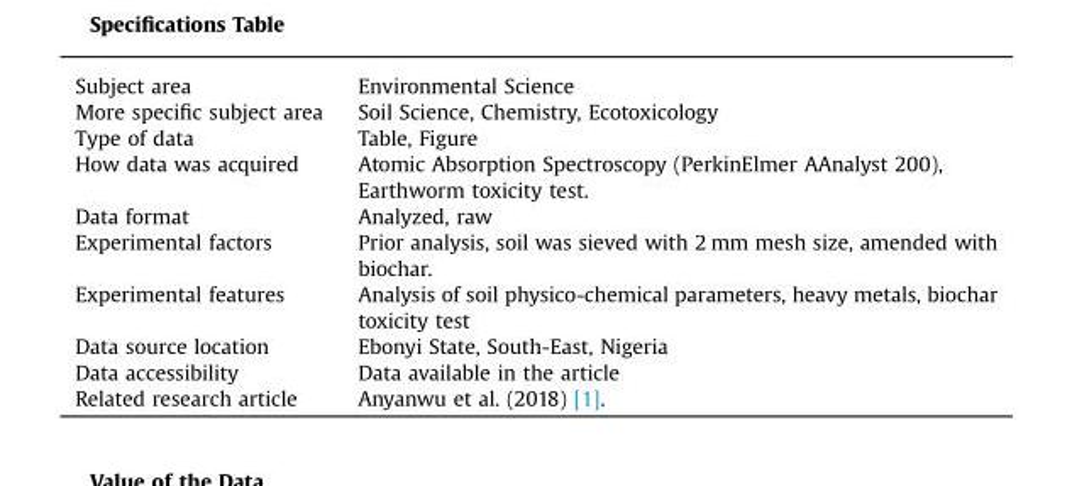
<table><tbody><tr><td>Subject area</td><td>Environmental Science</td></tr><tr><td>More specific subject area</td><td>Soil Science, Chemistry, Ecotoxicology</td></tr><tr><td>Type of data</td><td>Table, Figure</td></tr><tr><td>How data was acquired</td><td>Atomic Absorption Spectroscopy (PerkinElmer AAnalyst 200), Earthworm toxicity test.</td></tr><tr><td>Data format</td><td>Analyzed, raw</td></tr><tr><td>Experimental factors</td><td>Prior analysis, soil was sieved with 2 mm mesh size, amended with biochar.</td></tr><tr><td>Experimental features</td><td>Analysis of soil physico-chemical parameters, heavy metals, biochar toxicity test</td></tr><tr><td>Data source location</td><td>Ebonyi State, South-East, Nigeria</td></tr><tr><td>Data accessibility</td><td>Data available in the article</td></tr><tr><td>Related research article</td><td>Anyanwu et al. (2018) [1].</td></tr></tbody></table>